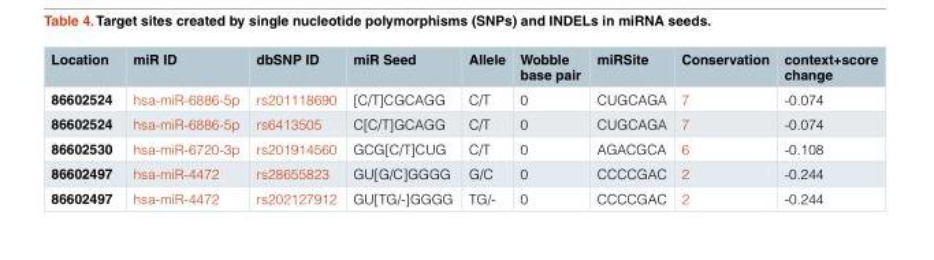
<table><thead><tr><td>Location</td><td>miR ID</td><td>dbSNP ID</td><td>miR Seed</td><td>Allele</td><td>Wobble base pair</td><td>miRSite</td><td>Conservation</td><td>context+score change</td></tr></thead><tbody><tr><td>86602524</td><td>hsa-miR-6886-5p</td><td>rs201118690</td><td>[C/T]CGCAGG</td><td>C/T</td><td>0</td><td>CUGCAGA</td><td>7</td><td>-0.074</td></tr><tr><td>86602524</td><td>hsa-miR-6886-5p</td><td>rs6413505</td><td>C[C/T]GCAGG</td><td>C/T</td><td>0</td><td>CUGCAGA</td><td>7</td><td>-0.074</td></tr><tr><td>86602530</td><td>hsa-miR-6720-3p</td><td>rs201914560</td><td>GCG[C/T]CUG</td><td>C/T</td><td>0</td><td>AGACGCA</td><td>6</td><td>-0.108</td></tr><tr><td>86602497</td><td>hsa-miR-4472</td><td>rs28655823</td><td>GU[G/C]GGGG</td><td>G/C</td><td>0</td><td>CCCCGAC</td><td>2</td><td>-0.244</td></tr><tr><td>86602497</td><td>hsa-miR-4472</td><td>rs202127912</td><td>GU[TG/-]GGGG</td><td>TG/-</td><td>0</td><td>CCCCGAC</td><td>2</td><td>-0.244</td></tr></tbody></table>